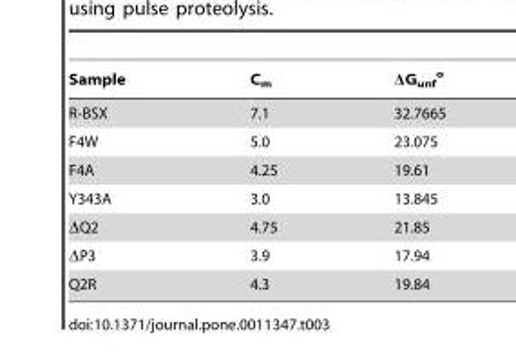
<table><thead><tr><td>Sample</td><td>C<sub>m</sub></td><td>ΔG<sub>unf</sub> <sup>o</sup></td></tr></thead><tbody><tr><td>R-BSX</td><td>7.1</td><td>32.7665</td></tr><tr><td>F4W</td><td>5.0</td><td>23.075</td></tr><tr><td>F4A</td><td>4.25</td><td>19.61</td></tr><tr><td>Y343A</td><td>3.0</td><td>13.845</td></tr><tr><td>ΔQ2</td><td>4.75</td><td>21.85</td></tr><tr><td>ΔP3</td><td>3.9</td><td>17.94</td></tr><tr><td>Q2R</td><td>4.3</td><td>19.84</td></tr></tbody></table>